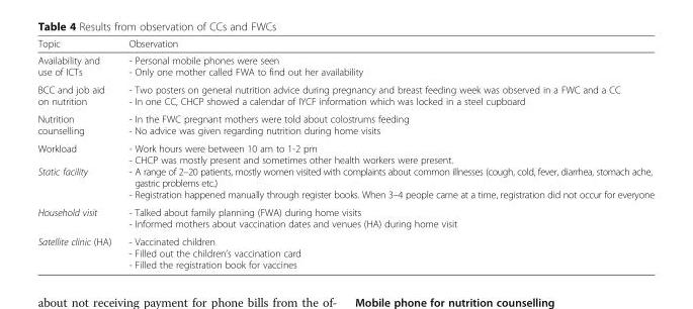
<table><thead><tr><td>Topic</td><td>Observation</td></tr></thead><tbody><tr><td>Availability and use of ICTs</td><td>- Personal mobile phones were seen - Only one mother called FWA to find out her availability</td></tr><tr><td>BCC and job aid on nutrition</td><td>- Two posters on general nutrition advice during pregnancy and breast feeding week was observed in a FWC and a CC - In one CC, CHCP showed a calendar of IYCF information which was locked in a steel cupboard</td></tr><tr><td>Nutrition counselling</td><td>- In the FWC pregnant mothers were told about colostrums feeding - No advice was given regarding nutrition during home visits</td></tr><tr><td>Workload Static facility</td><td>- Work hours were between 10 am to 1-2 pm - CHCP was mostly present and sometimes other health workers were present. - A range of 2–20 patients, mostly women visited with complaints about common illnesses (cough, cold, fever, diarrhea, stomach ache, gastric problems etc.) - Registration happened manually through register books. When 3–4 people came at a time, registration did not occur for everyone</td></tr><tr><td>Household visit</td><td>- Talked about family planning (FWA) during home visits - Informed mothers about vaccination dates and venues (HA) during home visit</td></tr><tr><td>Satellite clinic (HA)</td><td>- Vaccinated children - Filled out the children’s vaccination card - Filled the registration book for vaccines</td></tr></tbody></table>